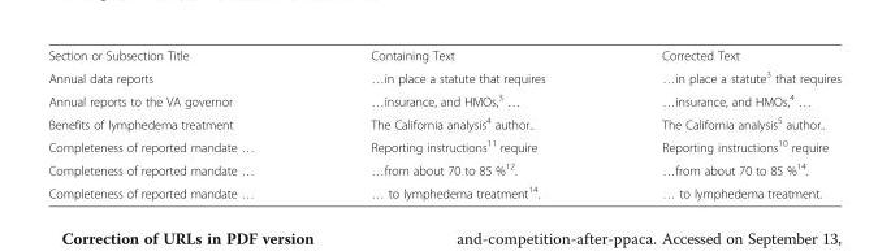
<table><tbody><tr><td>Section or Subsection Title</td><td>Containing Text</td><td>Corrected Text</td></tr><tr><td>Annual data reports</td><td>…in place a statute that requires</td><td>…in place a statute<sup>3</sup> that requires</td></tr><tr><td>Annual reports to the VA governor</td><td>…insurance, and HMOs,<sup>3</sup> …</td><td>…insurance, and HMOs,<sup>4</sup> …</td></tr><tr><td>Benefits of lymphedema treatment</td><td>The California analysis<sup>4</sup> author..</td><td>The California analysis<sup>5</sup> author..</td></tr><tr><td>Completeness of reported mandate …</td><td>Reporting instructions<sup>11</sup> require</td><td>Reporting instructions<sup>10</sup> require</td></tr><tr><td>Completeness of reported mandate …</td><td>…from about 70 to 85 %<sup>12</sup>.</td><td>…from about 70 to 85 %<sup>14</sup>.</td></tr><tr><td>Completeness of reported mandate …</td><td>… to lymphedema treatment<sup>14</sup>.</td><td>… to lymphedema treatment.</td></tr></tbody></table>